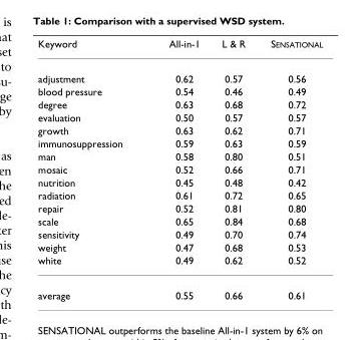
<table><thead><tr><td>Keyword</td><td>All-in-1</td><td>L &amp; R</td><td>SENSATIONAL</td></tr></thead><tbody><tr><td>adjustment</td><td>0.62</td><td>0.57</td><td>0.56</td></tr><tr><td>blood pressure</td><td>0.54</td><td>0.46</td><td>0.49</td></tr><tr><td>degree</td><td>0.63</td><td>0.68</td><td>0.72</td></tr><tr><td>evaluation</td><td>0.50</td><td>0.57</td><td>0.57</td></tr><tr><td>growth</td><td>0.63</td><td>0.62</td><td>0.71</td></tr><tr><td>immunosuppression</td><td>0.59</td><td>0.63</td><td>0.59</td></tr><tr><td>man</td><td>0.58</td><td>0.80</td><td>0.51</td></tr><tr><td>mosaic</td><td>0.52</td><td>0.66</td><td>0.71</td></tr><tr><td>nutrition</td><td>0.45</td><td>0.48</td><td>0.42</td></tr><tr><td>radiation</td><td>0.61</td><td>0.72</td><td>0.65</td></tr><tr><td>repair</td><td>0.52</td><td>0.81</td><td>0.80</td></tr><tr><td>scale</td><td>0.65</td><td>0.84</td><td>0.68</td></tr><tr><td>sensitivity</td><td>0.49</td><td>0.70</td><td>0.74</td></tr><tr><td>weight</td><td>0.47</td><td>0.68</td><td>0.53</td></tr><tr><td>white</td><td>0.49</td><td>0.62</td><td>0.52</td></tr><tr><td>average</td><td>0.55</td><td>0.66</td><td>0.61</td></tr></tbody></table>